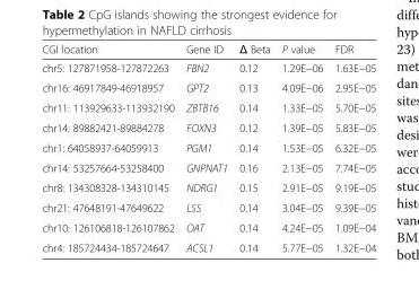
<table><thead><tr><td>CGI location</td><td>Gene ID</td><td>Δ Beta</td><td>P value</td><td>FDR</td></tr></thead><tbody><tr><td>chr5: 127871958-127872263</td><td>FBN2</td><td>0.12</td><td>1.29E−06</td><td>1.63E−05</td></tr><tr><td>chr16: 46917849-46918957</td><td>GPT2</td><td>0.13</td><td>4.09E−06</td><td>2.95E−05</td></tr><tr><td>chr11: 113929633-113932190</td><td>ZBTB16</td><td>0.14</td><td>1.33E−05</td><td>5.70E−05</td></tr><tr><td>chr14: 89882421-89884278</td><td>FOXN3</td><td>0.12</td><td>1.39E−05</td><td>5.83E−05</td></tr><tr><td>chr1: 64058937-64059913</td><td>PGM1</td><td>0.14</td><td>1.53E−05</td><td>6.32E−05</td></tr><tr><td>chr14: 53257664-53258400</td><td>GNPNAT1</td><td>0.16</td><td>2.13E−05</td><td>7.74E−05</td></tr><tr><td>chr8: 134308328-134310145</td><td>NDRG1</td><td>0.15</td><td>2.91E−05</td><td>9.19E−05</td></tr><tr><td>chr21: 47648191-47649622</td><td>LSS</td><td>0.14</td><td>3.04E−05</td><td>9.39E−05</td></tr><tr><td>chr10: 126106818-126107862</td><td>OAT</td><td>0.14</td><td>4.24E−05</td><td>1.09E−04</td></tr><tr><td>chr4: 185724434-185724647</td><td>ACSL1</td><td>0.14</td><td>5.77E−05</td><td>1.32E−04</td></tr></tbody></table>